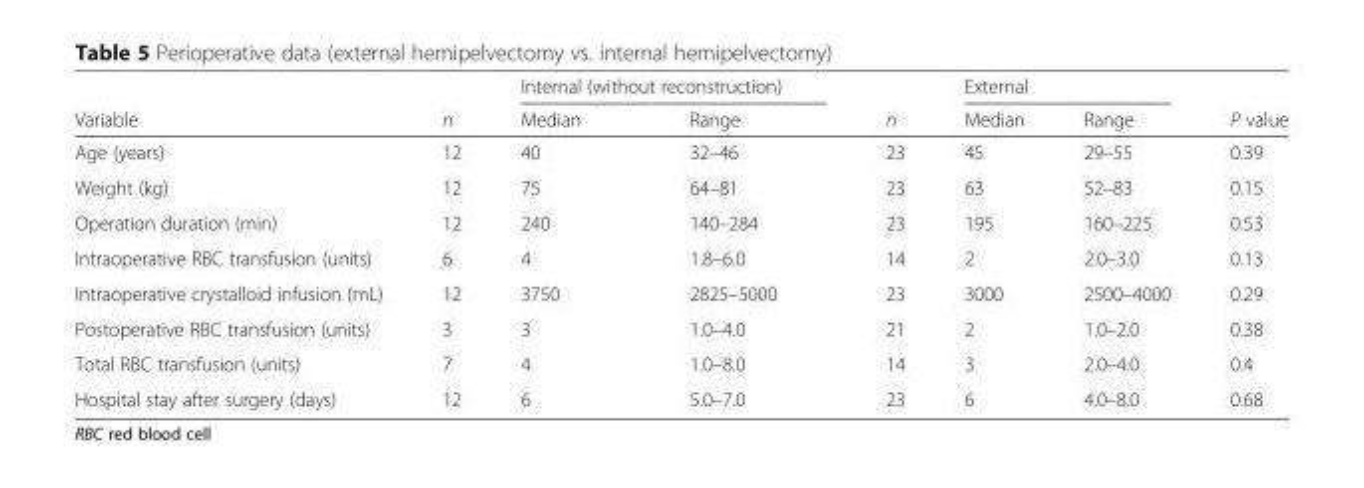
<table><thead><tr><td rowspan="2">Variable</td><td rowspan="2">n</td><td colspan="2">Internal (without reconstruction)</td><td rowspan="2">n</td><td colspan="2">External</td><td rowspan="2">P value</td></tr><tr><td>Median</td><td>Range</td><td>Median</td><td>Range</td></tr></thead><tbody><tr><td>Age (years)</td><td>12</td><td>40</td><td>32–46</td><td>23</td><td>45</td><td>29–55</td><td>0.39</td></tr><tr><td>Weight (kg)</td><td>12</td><td>75</td><td>64–81</td><td>23</td><td>63</td><td>52–83</td><td>0.15</td></tr><tr><td>Operation duration (min)</td><td>12</td><td>240</td><td>140–284</td><td>23</td><td>195</td><td>160–225</td><td>0.53</td></tr><tr><td>Intraoperative RBC transfusion (units)</td><td>6</td><td>4</td><td>1.8–6.0</td><td>14</td><td>2</td><td>2.0–3.0</td><td>0.13</td></tr><tr><td>Intraoperative crystalloid infusion (mL)</td><td>12</td><td>3750</td><td>2825–5000</td><td>23</td><td>3000</td><td>2500–4000</td><td>0.29</td></tr><tr><td>Postoperative RBC transfusion (units)</td><td>3</td><td>3</td><td>1.0–4.0</td><td>21</td><td>2</td><td>1.0–2.0</td><td>0.38</td></tr><tr><td>Total RBC transfusion (units)</td><td>7</td><td>4</td><td>1.0–8.0</td><td>14</td><td>3</td><td>2.0–4.0</td><td>0.4</td></tr><tr><td>Hospital stay after surgery (days)</td><td>12</td><td>6</td><td>5.0–7.0</td><td>23</td><td>6</td><td>4.0–8.0</td><td>0.68</td></tr></tbody></table>